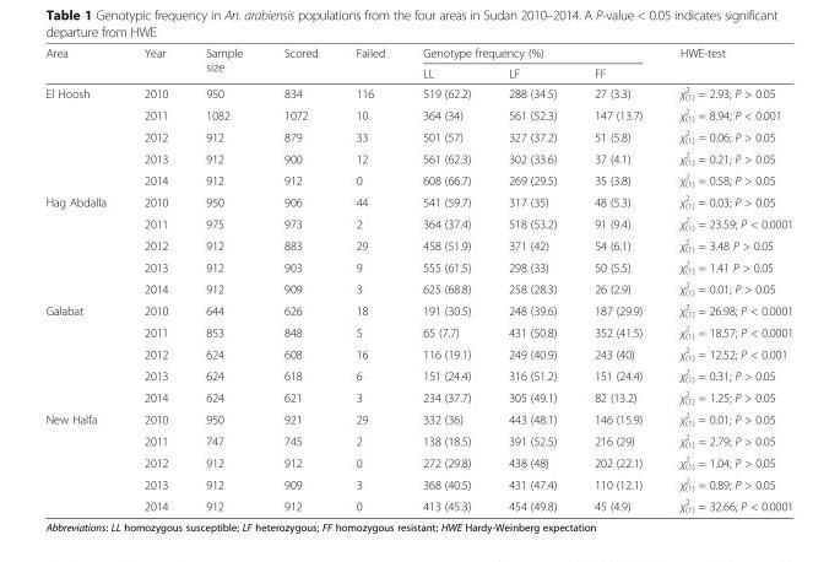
<table><thead><tr><td rowspan="2">Area</td><td rowspan="2">Year</td><td rowspan="2">Sample size</td><td rowspan="2">Scored</td><td rowspan="2">Failed</td><td colspan="3">Genotype frequency (%)</td><td rowspan="2">HWE-test</td></tr><tr><td>LL</td><td>LF</td><td>FF</td></tr></thead><tbody><tr><td rowspan="5">El Hoosh</td><td>2010</td><td>950</td><td>834</td><td>116</td><td>519 (62.2)</td><td>288 (34.5)</td><td>27 (3.3)</td><td>χ<sup>2</sup> <sub>(1)</sub> = 2.93; P &gt; 0.05</td></tr><tr><td>2011</td><td>1082</td><td>1072</td><td>10</td><td>364 (34)</td><td>561 (52.3)</td><td>147 (13.7)</td><td>χ<sup>2</sup> <sub>(1)</sub> = 8.94; P &lt; 0.001</td></tr><tr><td>2012</td><td>912</td><td>879</td><td>33</td><td>501 (57)</td><td>327 (37.2)</td><td>51 (5.8)</td><td>χ<sup>2</sup> <sub>(1)</sub> = 0.06; P &gt; 0.05</td></tr><tr><td>2013</td><td>912</td><td>900</td><td>12</td><td>561 (62.3)</td><td>302 (33.6)</td><td>37 (4.1)</td><td>χ<sup>2</sup> <sub>(1)</sub> = 0.21; P &gt; 0.05</td></tr><tr><td>2014</td><td>912</td><td>912</td><td>0</td><td>608 (66.7)</td><td>269 (29.5)</td><td>35 (3.8)</td><td>χ<sup>2</sup> <sub>(1)</sub> = 0.58; P &gt; 0.05</td></tr><tr><td rowspan="5">Hag Abdalla</td><td>2010</td><td>950</td><td>906</td><td>44</td><td>541 (59.7)</td><td>317 (35)</td><td>48 (5.3)</td><td>χ<sup>2</sup> <sub>(1)</sub> = 0.03; P &gt; 0.05</td></tr><tr><td>2011</td><td>975</td><td>973</td><td>2</td><td>364 (37.4)</td><td>518 (53.2)</td><td>91 (9.4)</td><td>χ<sup>2</sup> <sub>(1)</sub> = 23.59; P &lt; 0.0001</td></tr><tr><td>2012</td><td>912</td><td>883</td><td>29</td><td>458 (51.9)</td><td>371 (42)</td><td>54 (6.1)</td><td>χ<sup>2</sup> <sub>(1)</sub> = 3.48 P &gt; 0.05</td></tr><tr><td>2013</td><td>912</td><td>903</td><td>9</td><td>555 (61.5)</td><td>298 (33)</td><td>50 (5.5)</td><td>χ<sup>2</sup> <sub>(1)</sub> = 1.41 P &gt; 0.05</td></tr><tr><td>2014</td><td>912</td><td>909</td><td>3</td><td>625 (68.8)</td><td>258 (28.3)</td><td>26 (2.9)</td><td>χ<sup>2</sup> <sub>(1)</sub> = 0.01; P &gt; 0.05</td></tr><tr><td rowspan="5">Galabat</td><td>2010</td><td>644</td><td>626</td><td>18</td><td>191 (30.5)</td><td>248 (39.6)</td><td>187 (29.9)</td><td>χ<sup>2</sup> <sub>(1)</sub> = 26.98; P &lt; 0.0001</td></tr><tr><td>2011</td><td>853</td><td>848</td><td>5</td><td>65 (7.7)</td><td>431 (50.8)</td><td>352 (41.5)</td><td>χ<sup>2</sup> <sub>(1)</sub> = 18.57; P &lt; 0.0001</td></tr><tr><td>2012</td><td>624</td><td>608</td><td>16</td><td>116 (19.1)</td><td>249 (40.9)</td><td>243 (40)</td><td>χ<sup>2</sup> <sub>(1)</sub> = 12.52; P &lt; 0.001</td></tr><tr><td>2013</td><td>624</td><td>618</td><td>6</td><td>151 (24.4)</td><td>316 (51.2)</td><td>151 (24.4)</td><td>χ<sup>2</sup> <sub>(1)</sub> = 0.31; P &gt; 0.05</td></tr><tr><td>2014</td><td>624</td><td>621</td><td>3</td><td>234 (37.7)</td><td>305 (49.1)</td><td>82 (13.2)</td><td>χ<sup>2</sup> <sub>(1)</sub> = 1.25; P &gt; 0.05</td></tr><tr><td rowspan="5">New Halfa</td><td>2010</td><td>950</td><td>921</td><td>29</td><td>332 (36)</td><td>443 (48.1)</td><td>146 (15.9)</td><td>χ<sup>2</sup> <sub>(1)</sub> = 0.01; P &gt; 0.05</td></tr><tr><td>2011</td><td>747</td><td>745</td><td>2</td><td>138 (18.5)</td><td>391 (52.5)</td><td>216 (29)</td><td>χ<sup>2</sup> <sub>(1)</sub> = 2.79; P &gt; 0.05</td></tr><tr><td>2012</td><td>912</td><td>912</td><td>0</td><td>272 (29.8)</td><td>438 (48)</td><td>202 (22.1)</td><td>χ<sup>2</sup> <sub>(1)</sub> = 1.04; P &gt; 0.05</td></tr><tr><td>2013</td><td>912</td><td>909</td><td>3</td><td>368 (40.5)</td><td>431 (47.4)</td><td>110 (12.1)</td><td>χ<sup>2</sup> <sub>(1)</sub> = 0.89; P &gt; 0.05</td></tr><tr><td>2014</td><td>912</td><td>912</td><td>0</td><td>413 (45.3)</td><td>454 (49.8)</td><td>45 (4.9)</td><td>χ<sup>2</sup> <sub>(1)</sub> = 32.66; P &lt; 0.0001</td></tr></tbody></table>